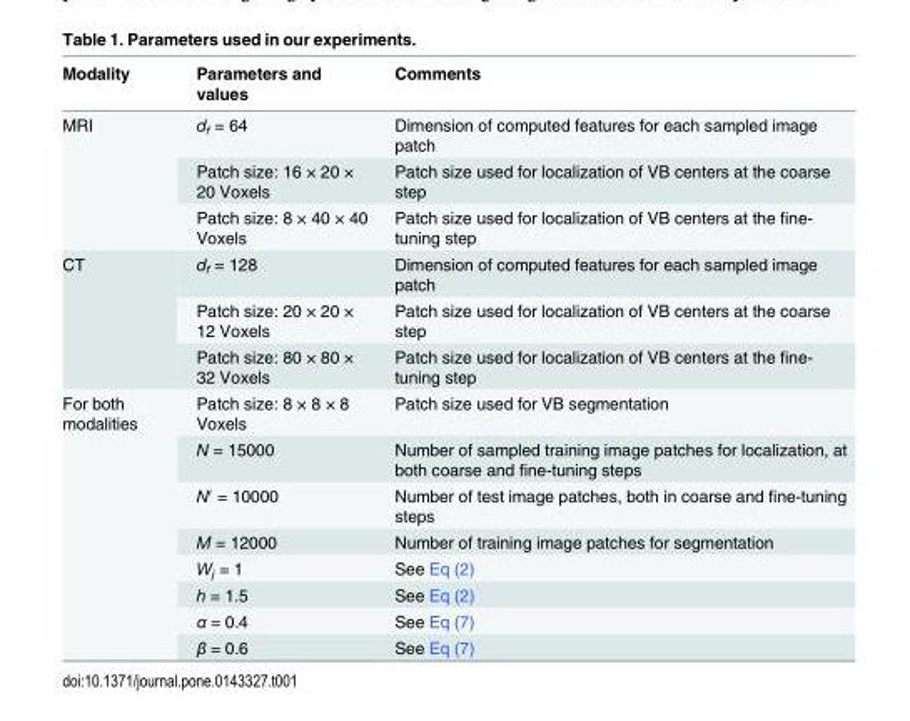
<table><thead><tr><td>Modality</td><td>Parameters and values</td><td>Comments</td></tr></thead><tbody><tr><td rowspan="3">MRI</td><td>d<sub>f</sub> = 64</td><td>Dimension of computed features for each sampled image patch</td></tr><tr><td>Patch size: 16 × 20 × 20 Voxels</td><td>Patch size used for localization of VB centers at the coarse step</td></tr><tr><td>Patch size: 8 × 40 × 40 Voxels</td><td>Patch size used for localization of VB centers at the fine- tuning step</td></tr><tr><td rowspan="3">CT</td><td>d<sub>f</sub> = 128</td><td>Dimension of computed features for each sampled image patch</td></tr><tr><td>Patch size: 20 × 20 × 12 Voxels</td><td>Patch size used for localization of VB centers at the coarse step</td></tr><tr><td>Patch size: 80 × 80 × 32 Voxels</td><td>Patch size used for localization of VB centers at the fine- tuning step</td></tr><tr><td rowspan="8">For both modalities</td><td>Patch size: 8 × 8 × 8 Voxels</td><td>Patch size used for VB segmentation</td></tr><tr><td>N = 15000</td><td>Number of sampled training image patches for localization, at both coarse and fine-tuning steps</td></tr><tr><td>N′ = 10000</td><td>Number of test image patches, both in coarse and fine-tuning steps</td></tr><tr><td>M = 12000</td><td>Number of training image patches for segmentation</td></tr><tr><td>W<sub>j</sub> = 1</td><td>See Eq (2)</td></tr><tr><td>h = 1.5</td><td>See Eq (2)</td></tr><tr><td>α = 0.4</td><td>See Eq (7)</td></tr><tr><td>β = 0.6</td><td>See Eq (7)</td></tr></tbody></table>